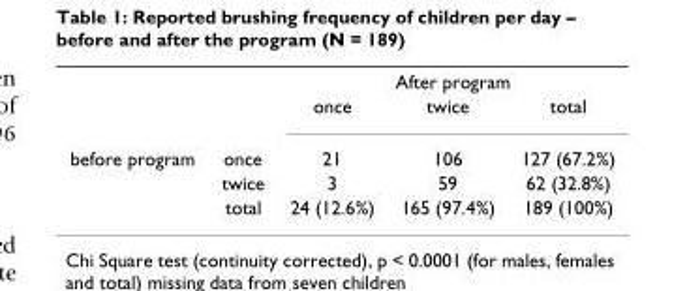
<table><thead><tr><td rowspan="2"></td><td rowspan="2"></td><td colspan="3">After program</td></tr><tr><td>once</td><td>twice</td><td>total</td></tr></thead><tbody><tr><td rowspan="3">before program</td><td>once</td><td>21</td><td>106</td><td>127 (67.2%)</td></tr><tr><td>twice</td><td>3</td><td>59</td><td>62 (32.8%)</td></tr><tr><td>total</td><td>24 (12.6%)</td><td>165 (97.4%)</td><td>189 (100%)</td></tr></tbody></table>